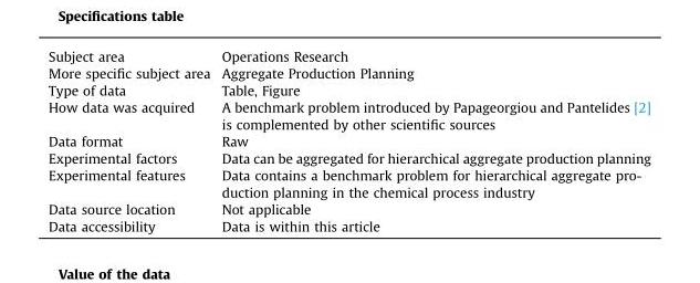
<table><tbody><tr><td>Subject area</td><td>Operations Research</td></tr><tr><td>More specific subject area</td><td>Aggregate Production Planning</td></tr><tr><td>Type of data</td><td>Table, Figure</td></tr><tr><td>How data was acquired</td><td>A benchmark problem introduced by Papageorgiou and Pantelides [2] is complemented by other scientific sources</td></tr><tr><td>Data format</td><td>Raw</td></tr><tr><td>Experimental factors</td><td>Data can be aggregated for hierarchical aggregate production planning</td></tr><tr><td>Experimental features</td><td>Data contains a benchmark problem for hierarchical aggregate pro- duction planning in the chemical process industry</td></tr><tr><td>Data source location</td><td>Not applicable</td></tr><tr><td>Data accessibility</td><td>Data is within this article</td></tr></tbody></table>